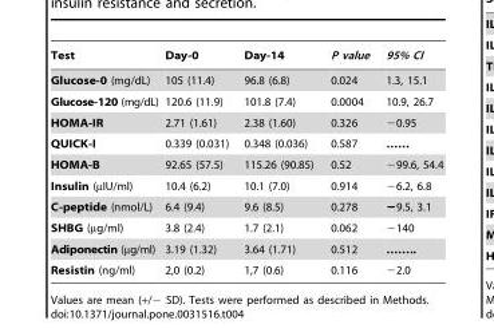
<table><thead><tr><td>Test</td><td>Day-0</td><td>Day-14</td><td>P value</td><td>95% CI</td></tr></thead><tbody><tr><td>Glucose-0 (mg/dL)</td><td>105 (11.4)</td><td>96.8 (6.8)</td><td>0.024</td><td>1.3, 15.1</td></tr><tr><td>Glucose-120 (mg/dL)</td><td>120.6 (11.9)</td><td>101.8 (7.4)</td><td>0.0004</td><td>10.9, 26.7</td></tr><tr><td>HOMA-IR</td><td>2.71 (1.61)</td><td>2.38 (1.60)</td><td>0.326</td><td>−0.95</td></tr><tr><td>QUICK-I</td><td>0.339 (0.031)</td><td>0.348 (0.036)</td><td>0.587</td><td>……</td></tr><tr><td>HOMA-B</td><td>92.65 (57.5)</td><td>115.26 (90.85)</td><td>0.52</td><td>−99.6, 54.4</td></tr><tr><td>Insulin (µIU/ml)</td><td>10.4 (6.2)</td><td>10.1 (7.0)</td><td>0.914</td><td>−6.2, 6.8</td></tr><tr><td>C-peptide (nmol/L)</td><td>6.4 (9.4)</td><td>9.6 (8.5)</td><td>0.278</td><td>−9.5, 3.1</td></tr><tr><td>SHBG (µg/ml)</td><td>3.8 (2.4)</td><td>1.7 (2.1)</td><td>0.062</td><td>−140</td></tr><tr><td>Adiponectin (µg/ml)</td><td>3.19 (1.32)</td><td>3.64 (1.71)</td><td>0.512</td><td>……..</td></tr><tr><td>Resistin (ng/ml)</td><td>2,0 (0.2)</td><td>1,7 (0.6)</td><td>0.116</td><td>−2.0</td></tr></tbody></table>